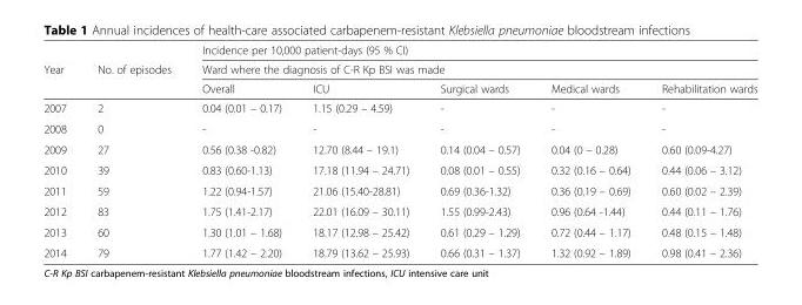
<table><thead><tr><td rowspan="3">Year</td><td rowspan="3">No. of episodes</td><td rowspan="2" colspan="5">Incidence per 10,000 patient-days (95 % CI) Ward where the diagnosis of C-R Kp BSI was made</td></tr><tr></tr><tr><td>Overall</td><td>ICU</td><td>Surgical wards</td><td>Medical wards</td><td>Rehabilitation wards</td></tr></thead><tbody><tr><td>2007</td><td>2</td><td>0.04 (0.01 – 0.17)</td><td>1.15 (0.29 – 4.59)</td><td>-</td><td>-</td><td>-</td></tr><tr><td>2008</td><td>0</td><td>-</td><td>-</td><td>-</td><td>-</td><td>-</td></tr><tr><td>2009</td><td>27</td><td>0.56 (0.38 -0.82)</td><td>12.70 (8.44 – 19.1)</td><td>0.14 (0.04 – 0.57)</td><td>0.04 (0 – 0.28)</td><td>0.60 (0.09-4.27)</td></tr><tr><td>2010</td><td>39</td><td>0.83 (0.60-1.13)</td><td>17.18 (11.94 – 24.71)</td><td>0.08 (0.01 – 0.55)</td><td>0.32 (0.16 – 0.64)</td><td>0.44 (0.06 – 3.12)</td></tr><tr><td>2011</td><td>59</td><td>1.22 (0.94-1.57)</td><td>21.06 (15.40-28.81)</td><td>0.69 (0.36-1.32)</td><td>0.36 (0.19 – 0.69)</td><td>0.60 (0.02 – 2.39)</td></tr><tr><td>2012</td><td>83</td><td>1.75 (1.41-2.17)</td><td>22.01 (16.09 – 30.11)</td><td>1.55 (0.99-2.43)</td><td>0.96 (0.64 -1.44)</td><td>0.44 (0.11 – 1.76)</td></tr><tr><td>2013</td><td>60</td><td>1.30 (1.01 – 1.68)</td><td>18.17 (12.98 – 25.42)</td><td>0.61 (0.29 – 1.29)</td><td>0.72 (0.44 – 1.17)</td><td>0.48 (0.15 – 1.48)</td></tr><tr><td>2014</td><td>79</td><td>1.77 (1.42 – 2.20)</td><td>18.79 (13.62 – 25.93)</td><td>0.66 (0.31 – 1.37)</td><td>1.32 (0.92 – 1.89)</td><td>0.98 (0.41 – 2.36)</td></tr></tbody></table>